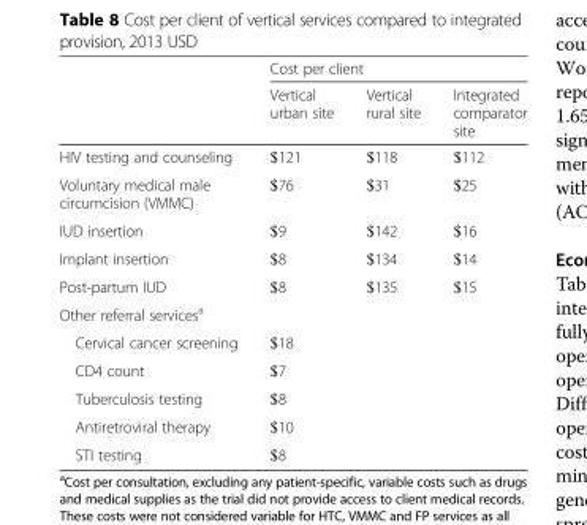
<table><thead><tr><td rowspan="2"></td><td colspan="3">Cost per client</td></tr><tr><td>Vertical urban site</td><td>Vertical rural site</td><td>Integrated comparator site</td></tr></thead><tbody><tr><td>HIV testing and counseling</td><td>$121</td><td>$118</td><td>$112</td></tr><tr><td>Voluntary medical male circumcision (VMMC)</td><td>$76</td><td>$31</td><td>$25</td></tr><tr><td>IUD insertion</td><td>$9</td><td>$142</td><td>$16</td></tr><tr><td>Implant insertion</td><td>$8</td><td>$134</td><td>$14</td></tr><tr><td>Post-partum IUD</td><td>$8</td><td>$135</td><td>$15</td></tr><tr><td colspan="4">Other referral services<sup>a</sup></td></tr><tr><td>Cervical cancer screening</td><td>$18</td><td></td><td></td></tr><tr><td>CD4 count</td><td>$7</td><td></td><td></td></tr><tr><td>Tuberculosis testing</td><td>$8</td><td></td><td></td></tr><tr><td>Antiretroviral therapy</td><td>$10</td><td></td><td></td></tr><tr><td>STI testing</td><td>$8</td><td></td><td></td></tr></tbody></table>